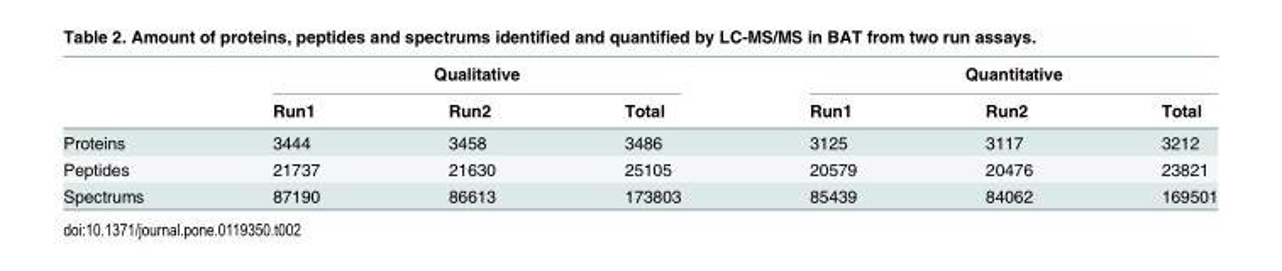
<table><thead><tr><td rowspan="2"></td><td colspan="3">Qualitative</td><td colspan="3">Quantitative</td></tr><tr><td>Run1</td><td>Run2</td><td>Total</td><td>Run1</td><td>Run2</td><td>Total</td></tr></thead><tbody><tr><td>Proteins</td><td>3444</td><td>3458</td><td>3486</td><td>3125</td><td>3117</td><td>3212</td></tr><tr><td>Peptides</td><td>21737</td><td>21630</td><td>25105</td><td>20579</td><td>20476</td><td>23821</td></tr><tr><td>Spectrums</td><td>87190</td><td>86613</td><td>173803</td><td>85439</td><td>84062</td><td>169501</td></tr></tbody></table>